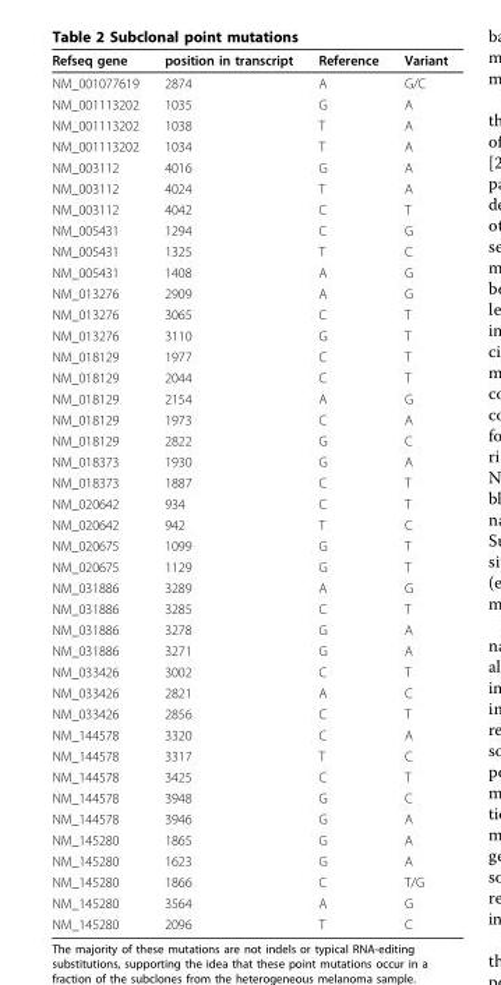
<table><thead><tr><td>Refseq gene</td><td>position in transcript</td><td>Reference</td><td>Variant</td></tr></thead><tbody><tr><td>NM_001077619</td><td>2874</td><td>A</td><td>G/C</td></tr><tr><td>NM_001113202</td><td>1035</td><td>G</td><td>A</td></tr><tr><td>NM_001113202</td><td>1038</td><td>T</td><td>A</td></tr><tr><td>NM_001113202</td><td>1034</td><td>T</td><td>A</td></tr><tr><td>NM_003112</td><td>4016</td><td>G</td><td>A</td></tr><tr><td>NM_003112</td><td>4024</td><td>T</td><td>A</td></tr><tr><td>NM_003112</td><td>4042</td><td>C</td><td>T</td></tr><tr><td>NM_005431</td><td>1294</td><td>C</td><td>G</td></tr><tr><td>NM_005431</td><td>1325</td><td>T</td><td>C</td></tr><tr><td>NM_005431</td><td>1408</td><td>A</td><td>G</td></tr><tr><td>NM_013276</td><td>2909</td><td>A</td><td>G</td></tr><tr><td>NM_013276</td><td>3065</td><td>C</td><td>T</td></tr><tr><td>NM_013276</td><td>3110</td><td>G</td><td>T</td></tr><tr><td>NM_018129</td><td>1977</td><td>C</td><td>T</td></tr><tr><td>NM_018129</td><td>2044</td><td>C</td><td>T</td></tr><tr><td>NM_018129</td><td>2154</td><td>A</td><td>G</td></tr><tr><td>NM_018129</td><td>1973</td><td>C</td><td>A</td></tr><tr><td>NM_018129</td><td>2822</td><td>G</td><td>C</td></tr><tr><td>NM_018373</td><td>1930</td><td>G</td><td>A</td></tr><tr><td>NM_018373</td><td>1887</td><td>C</td><td>T</td></tr><tr><td>NM_020642</td><td>934</td><td>C</td><td>T</td></tr><tr><td>NM_020642</td><td>942</td><td>T</td><td>C</td></tr><tr><td>NM_020675</td><td>1099</td><td>G</td><td>T</td></tr><tr><td>NM_020675</td><td>1129</td><td>G</td><td>T</td></tr><tr><td>NM_031886</td><td>3289</td><td>A</td><td>G</td></tr><tr><td>NM_031886</td><td>3285</td><td>C</td><td>T</td></tr><tr><td>NM_031886</td><td>3278</td><td>G</td><td>A</td></tr><tr><td>NM_031886</td><td>3271</td><td>G</td><td>A</td></tr><tr><td>NM_033426</td><td>3002</td><td>C</td><td>T</td></tr><tr><td>NM_033426</td><td>2821</td><td>A</td><td>C</td></tr><tr><td>NM_033426</td><td>2856</td><td>C</td><td>T</td></tr><tr><td>NM_144578</td><td>3320</td><td>C</td><td>A</td></tr><tr><td>NM_144578</td><td>3317</td><td>T</td><td>C</td></tr><tr><td>NM_144578</td><td>3425</td><td>C</td><td>T</td></tr><tr><td>NM_144578</td><td>3948</td><td>G</td><td>C</td></tr><tr><td>NM_144578</td><td>3946</td><td>G</td><td>A</td></tr><tr><td>NM_145280</td><td>1865</td><td>G</td><td>A</td></tr><tr><td>NM_145280</td><td>1623</td><td>G</td><td>A</td></tr><tr><td>NM_145280</td><td>1866</td><td>C</td><td>T/G</td></tr><tr><td>NM_145280</td><td>3564</td><td>A</td><td>G</td></tr><tr><td>NM_145280</td><td>2096</td><td>T</td><td>C</td></tr></tbody></table>